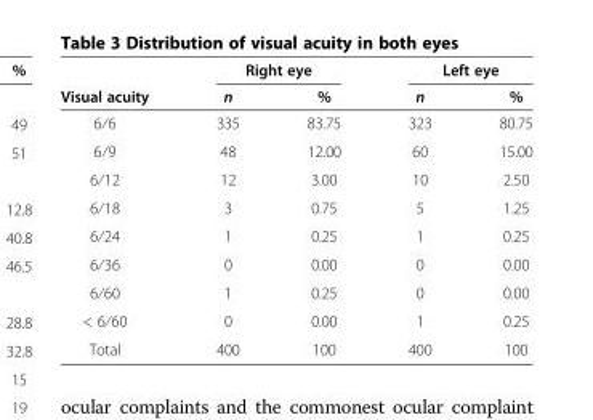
<table><thead><tr><td rowspan="2">Visual acuity</td><td colspan="2">Right eye</td><td colspan="2">Left eye</td></tr><tr><td>n</td><td>%</td><td>n</td><td>%</td></tr></thead><tbody><tr><td>6⁄6</td><td>335</td><td>83.75</td><td>323</td><td>80.75</td></tr><tr><td>6⁄9</td><td>48</td><td>12.00</td><td>60</td><td>15.00</td></tr><tr><td>6⁄12</td><td>12</td><td>3.00</td><td>10</td><td>2.50</td></tr><tr><td>6⁄18</td><td>3</td><td>0.75</td><td>5</td><td>1.25</td></tr><tr><td>6⁄24</td><td>1</td><td>0.25</td><td>1</td><td>0.25</td></tr><tr><td>6⁄36</td><td>0</td><td>0.00</td><td>0</td><td>0.00</td></tr><tr><td>6⁄60</td><td>1</td><td>0.25</td><td>0</td><td>0.00</td></tr><tr><td>&lt; 6⁄60</td><td>0</td><td>0.00</td><td>1</td><td>0.25</td></tr><tr><td>Total</td><td>400</td><td>100</td><td>400</td><td>100</td></tr></tbody></table>